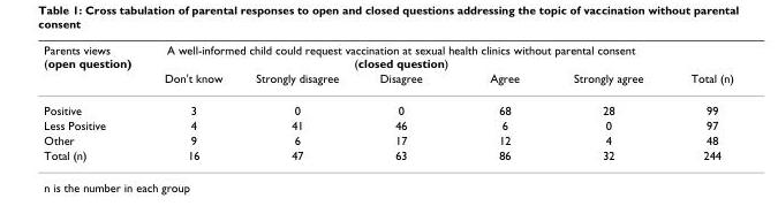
<table><thead><tr><td rowspan="2">Parents views (open question)</td><td colspan="5">A well-informed child could request vaccination at sexual health clinics without parental consent (closed question)</td><td rowspan="2">Total (n)</td></tr><tr><td>Don&#x27;t know</td><td>Strongly disagree</td><td>Disagree</td><td>Agree</td><td>Strongly agree</td></tr></thead><tbody><tr><td>Positive</td><td>3</td><td>0</td><td>0</td><td>68</td><td>28</td><td>99</td></tr><tr><td>Less Positive</td><td>4</td><td>41</td><td>46</td><td>6</td><td>0</td><td>97</td></tr><tr><td>Other</td><td>9</td><td>6</td><td>17</td><td>12</td><td>4</td><td>48</td></tr><tr><td>Total (n)</td><td>16</td><td>47</td><td>63</td><td>86</td><td>32</td><td>244</td></tr></tbody></table>